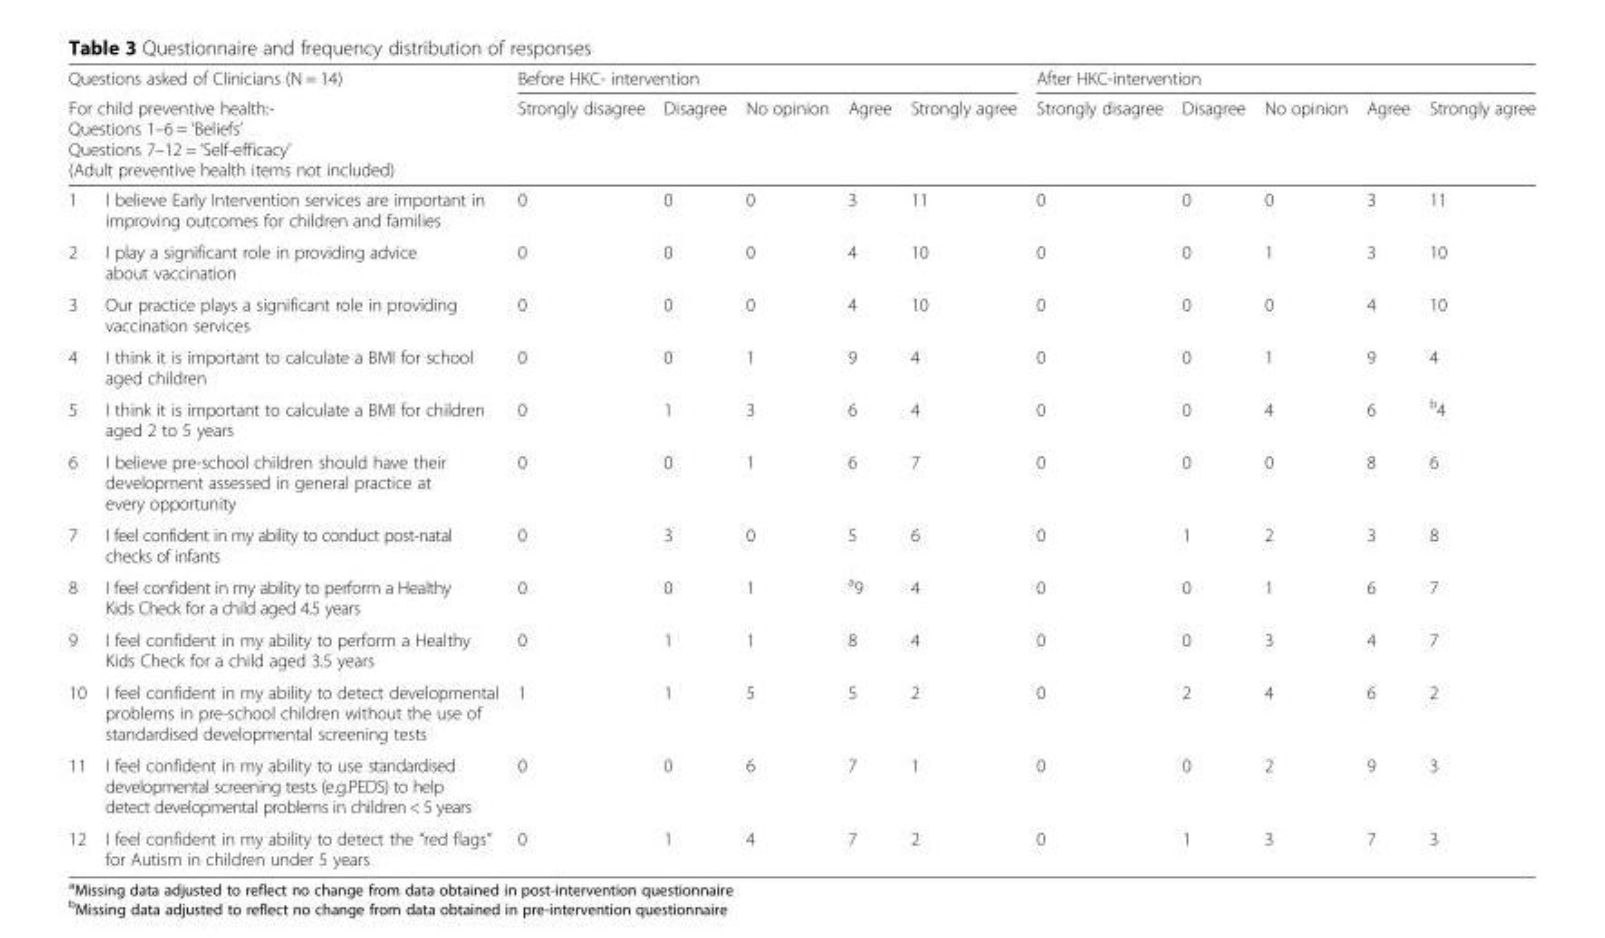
<table><thead><tr><td rowspan="5" colspan="2">Questions asked of Clinicians (N = 14) For child preventive health:- Questions 1–6 = ‘Beliefs’ Questions 7–12 = ‘Self-efficacy’ (Adult preventive health items not included)</td><td colspan="5">Before HKC- intervention</td><td colspan="5">After HKC-intervention</td></tr><tr><td rowspan="5">Strongly disagree 0</td><td rowspan="5">Disagree 0</td><td rowspan="5">No opinion 0</td><td rowspan="5">Agree 3</td><td rowspan="5">Strongly agree 11</td><td rowspan="5">Strongly disagree 0</td><td rowspan="5">Disagree 0</td><td rowspan="5">No opinion 0</td><td rowspan="5">Agree 3</td><td rowspan="5">Strongly agree 11</td></tr><tr></tr><tr></tr><tr></tr><tr><td>1</td><td>I believe Early Intervention services are important in improving outcomes for children and families</td></tr></thead><tbody><tr><td>2</td><td>I play a significant role in providing advice about vaccination</td><td>0</td><td>0</td><td>0</td><td>4</td><td>10</td><td>0</td><td>0</td><td>1</td><td>3</td><td>10</td></tr><tr><td>3</td><td>Our practice plays a significant role in providing vaccination services</td><td>0</td><td>0</td><td>0</td><td>4</td><td>10</td><td>0</td><td>0</td><td>0</td><td>4</td><td>10</td></tr><tr><td>4</td><td>I think it is important to calculate a BMI for school aged children</td><td>0</td><td>0</td><td>1</td><td>9</td><td>4</td><td>0</td><td>0</td><td>1</td><td>9</td><td>4</td></tr><tr><td>5</td><td>I think it is important to calculate a BMI for children aged 2 to 5 years</td><td>0</td><td>1</td><td>3</td><td>6</td><td>4</td><td>0</td><td>0</td><td>4</td><td>6</td><td><sup>b</sup>4</td></tr><tr><td>6</td><td>I believe pre-school children should have their development assessed in general practice at every opportunity</td><td>0</td><td>0</td><td>1</td><td>6</td><td>7</td><td>0</td><td>0</td><td>0</td><td>8</td><td>6</td></tr><tr><td>7</td><td>I feel confident in my ability to conduct post-natal checks of infants</td><td>0</td><td>3</td><td>0</td><td>5</td><td>6</td><td>0</td><td>1</td><td>2</td><td>3</td><td>8</td></tr><tr><td>8</td><td>I feel confident in my ability to perform a Healthy Kids Check for a child aged 4.5 years</td><td>0</td><td>0</td><td>1</td><td><sup>a</sup>9</td><td>4</td><td>0</td><td>0</td><td>1</td><td>6</td><td>7</td></tr><tr><td>9</td><td>I feel confident in my ability to perform a Healthy Kids Check for a child aged 3.5 years</td><td>0</td><td>1</td><td>1</td><td>8</td><td>4</td><td>0</td><td>0</td><td>3</td><td>4</td><td>7</td></tr><tr><td>10</td><td>I feel confident in my ability to detect developmental problems in pre-school children without the use of standardised developmental screening tests</td><td>1</td><td>1</td><td>5</td><td>5</td><td>2</td><td>0</td><td>2</td><td>4</td><td>6</td><td>2</td></tr><tr><td>11</td><td>I feel confident in my ability to use standardised developmental screening tests (e.g.PEDS) to help detect developmental problems in children &lt; 5 years</td><td>0</td><td>0</td><td>6</td><td>7</td><td>1</td><td>0</td><td>0</td><td>2</td><td>9</td><td>3</td></tr><tr><td>12</td><td>I feel confident in my ability to detect the “red flags” for Autism in children under 5 years</td><td>0</td><td>1</td><td>4</td><td>7</td><td>2</td><td>0</td><td>1</td><td>3</td><td>7</td><td>3</td></tr></tbody></table>